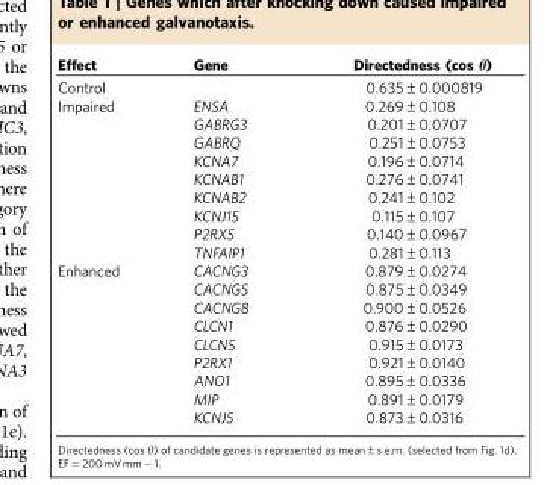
<table><thead><tr><td>Effect</td><td>Gene</td><td>Directedness (cos θ)</td></tr></thead><tbody><tr><td>Control</td><td></td><td>0.635±0.000819</td></tr><tr><td rowspan="9">Impaired</td><td>ENSA</td><td>0.269±0.108</td></tr><tr><td>GABRG3</td><td>0.201±0.0707</td></tr><tr><td>GABRQ</td><td>0.251±0.0753</td></tr><tr><td>KCNA7</td><td>0.196±0.0714</td></tr><tr><td>KCNAB1</td><td>0.276±0.0741</td></tr><tr><td>KCNAB2</td><td>0.241±0.102</td></tr><tr><td>KCNJ15</td><td>0.115±0.107</td></tr><tr><td>P2RX5</td><td>0.140±0.0967</td></tr><tr><td>TNFAIP1</td><td>0.281±0.113</td></tr><tr><td rowspan="9">Enhanced</td><td>CACNG3</td><td>0.879±0.0274</td></tr><tr><td>CACNG5</td><td>0.875±0.0349</td></tr><tr><td>CACNG8</td><td>0.900±0.0526</td></tr><tr><td>CLCN1</td><td>0.876±0.0290</td></tr><tr><td>CLCN5</td><td>0.915±0.0173</td></tr><tr><td>P2RX1</td><td>0.921±0.0140</td></tr><tr><td>ANO1</td><td>0.895±0.0336</td></tr><tr><td>MIP</td><td>0.891±0.0179</td></tr><tr><td>KCNJ5</td><td>0.873±0.0316</td></tr></tbody></table>